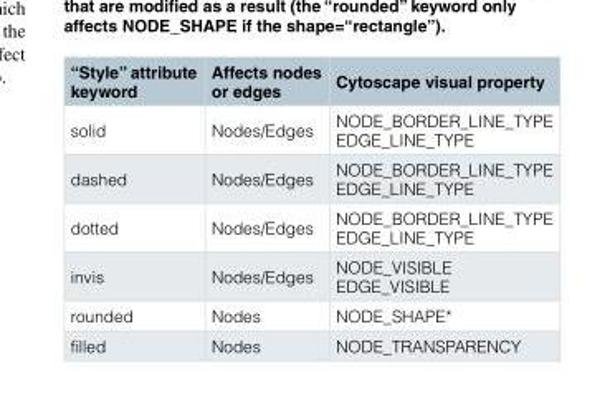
<table><thead><tr><td>“Style” attribute keyword</td><td>Affects nodes or edges</td><td>Cytoscape visual property</td></tr></thead><tbody><tr><td>solid</td><td>Nodes/Edges</td><td>NODE_BORDER_LINE_TYPE EDGE_LINE_TYPE</td></tr><tr><td>dashed</td><td>Nodes/Edges</td><td>NODE_BORDER_LINE_TYPE EDGE_LINE_TYPE</td></tr><tr><td>dotted</td><td>Nodes/Edges</td><td>NODE_BORDER_LINE_TYPE EDGE_LINE_TYPE</td></tr><tr><td>invis</td><td>Nodes/Edges</td><td>NODE_VISIBLE EDGE_VISIBLE</td></tr><tr><td>rounded</td><td>Nodes</td><td>NODE_SHAPE*</td></tr><tr><td>filled</td><td>Nodes</td><td>NODE_TRANSPARENCY</td></tr></tbody></table>